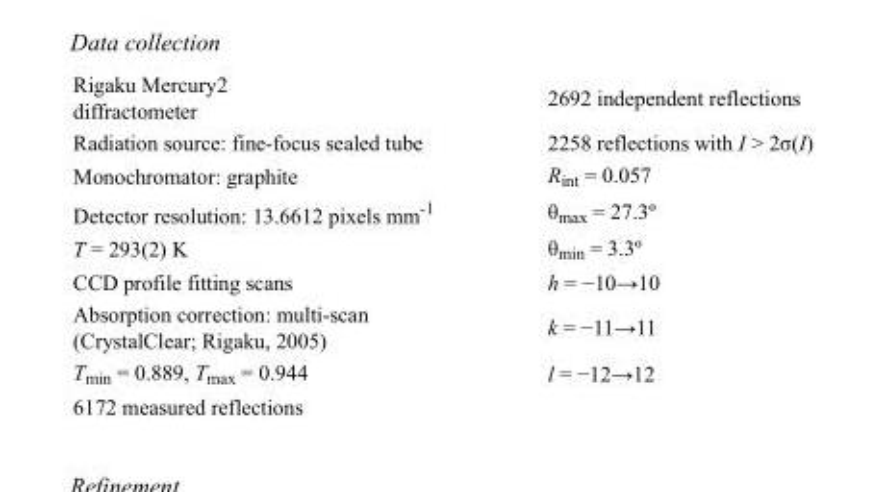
<table><tbody><tr><td>Rigaku Mercury2 diffractometer</td><td>2692 independent reflections</td></tr><tr><td>Radiation source: fine-focus sealed tube</td><td>2258 reflections with I &gt; 2σ(I)</td></tr><tr><td>Monochromator: graphite</td><td>R<sub>int</sub> = 0.057</td></tr><tr><td>Detector resolution: 13.6612 pixels mm<sup>-1</sup></td><td>θ<sub>max</sub> = 27.3º</td></tr><tr><td>T = 293(2) K</td><td>θ<sub>min</sub> = 3.3º</td></tr><tr><td>CCD profile fitting scans</td><td>h = −10→10</td></tr><tr><td>Absorption correction: multi-scan (CrystalClear; Rigaku, 2005)</td><td>k = −11→11</td></tr><tr><td>T<sub>min</sub> = 0.889, T<sub>max</sub> = 0.944</td><td>l = −12→12</td></tr><tr><td>6172 measured reflections</td><td></td></tr></tbody></table>